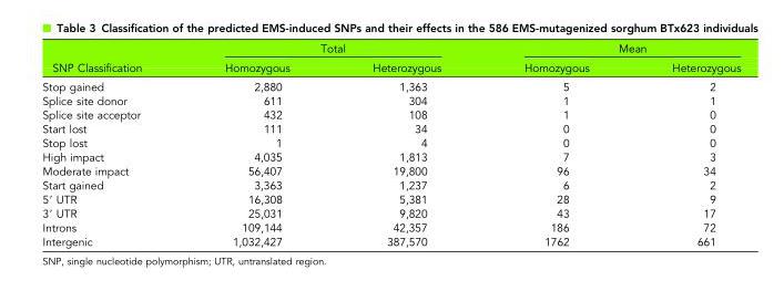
<table><thead><tr><td rowspan="2">SNP Classification</td><td colspan="2">Total</td><td colspan="2">Mean</td></tr><tr><td>Homozygous</td><td>Heterozygous</td><td>Homozygous</td><td>Heterozygous</td></tr></thead><tbody><tr><td>Stop gained</td><td>2,880</td><td>1,363</td><td>5</td><td>2</td></tr><tr><td>Splice site donor</td><td>611</td><td>304</td><td>1</td><td>1</td></tr><tr><td>Splice site acceptor</td><td>432</td><td>108</td><td>1</td><td>0</td></tr><tr><td>Start lost</td><td>111</td><td>34</td><td>0</td><td>0</td></tr><tr><td>Stop lost</td><td>1</td><td>4</td><td>0</td><td>0</td></tr><tr><td>High impact</td><td>4,035</td><td>1,813</td><td>7</td><td>3</td></tr><tr><td>Moderate impact</td><td>56,407</td><td>19,800</td><td>96</td><td>34</td></tr><tr><td>Start gained</td><td>3,363</td><td>1,237</td><td>6</td><td>2</td></tr><tr><td>5′ UTR</td><td>16,308</td><td>5,381</td><td>28</td><td>9</td></tr><tr><td>3′ UTR</td><td>25,031</td><td>9,820</td><td>43</td><td>17</td></tr><tr><td>Introns</td><td>109,144</td><td>42,357</td><td>186</td><td>72</td></tr><tr><td>Intergenic</td><td>1,032,427</td><td>387,570</td><td>1762</td><td>661</td></tr></tbody></table>